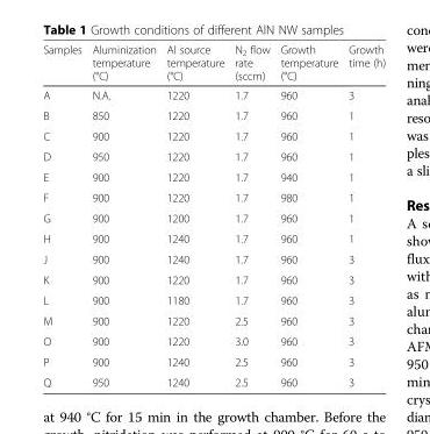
<table><thead><tr><td>Samples</td><td>Aluminization temperature (°C)</td><td>Al source temperature (°C)</td><td>N<sub>2</sub> flow rate (sccm)</td><td>Growth temperature (°C)</td><td>Growth time (h)</td></tr></thead><tbody><tr><td>A</td><td>N.A.</td><td>1220</td><td>1.7</td><td>960</td><td>3</td></tr><tr><td>B</td><td>850</td><td>1220</td><td>1.7</td><td>960</td><td>1</td></tr><tr><td>C</td><td>900</td><td>1220</td><td>1.7</td><td>960</td><td>1</td></tr><tr><td>D</td><td>950</td><td>1220</td><td>1.7</td><td>960</td><td>1</td></tr><tr><td>E</td><td>900</td><td>1220</td><td>1.7</td><td>940</td><td>1</td></tr><tr><td>F</td><td>900</td><td>1220</td><td>1.7</td><td>980</td><td>1</td></tr><tr><td>G</td><td>900</td><td>1200</td><td>1.7</td><td>960</td><td>1</td></tr><tr><td>H</td><td>900</td><td>1240</td><td>1.7</td><td>960</td><td>1</td></tr><tr><td>J</td><td>900</td><td>1240</td><td>1.7</td><td>960</td><td>3</td></tr><tr><td>K</td><td>900</td><td>1220</td><td>1.7</td><td>960</td><td>3</td></tr><tr><td>L</td><td>900</td><td>1180</td><td>1.7</td><td>960</td><td>3</td></tr><tr><td>M</td><td>900</td><td>1220</td><td>2.5</td><td>960</td><td>3</td></tr><tr><td>O</td><td>900</td><td>1220</td><td>3.0</td><td>960</td><td>3</td></tr><tr><td>P</td><td>900</td><td>1240</td><td>2.5</td><td>960</td><td>3</td></tr><tr><td>Q</td><td>950</td><td>1240</td><td>2.5</td><td>960</td><td>3</td></tr></tbody></table>